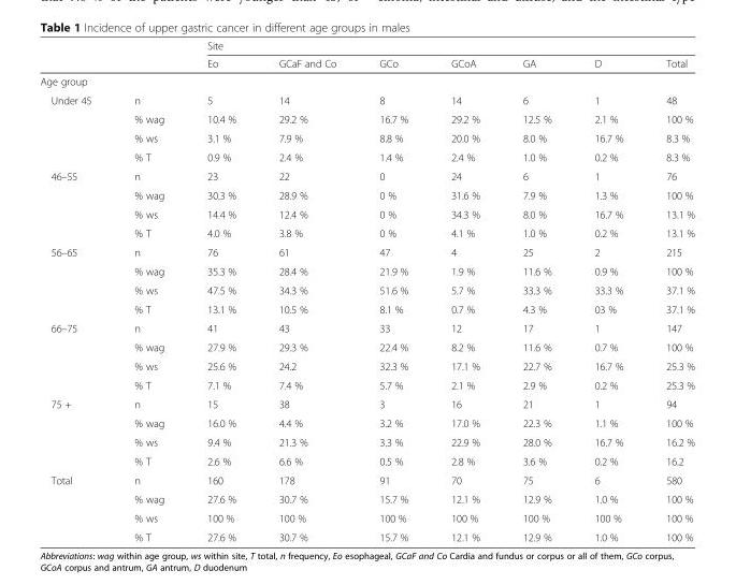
<table><thead><tr><td rowspan="2"></td><td rowspan="2"></td><td colspan="7">Site</td></tr><tr><td>Eo</td><td>GCaF and Co</td><td>GCo</td><td>GCoA</td><td>GA</td><td>D</td><td>Total</td></tr></thead><tbody><tr><td colspan="9">Age group</td></tr><tr><td rowspan="4">Under 45</td><td>n</td><td>5</td><td>14</td><td>8</td><td>14</td><td>6</td><td>1</td><td>48</td></tr><tr><td>% wag</td><td>10.4 %</td><td>29.2 %</td><td>16.7 %</td><td>29.2 %</td><td>12.5 %</td><td>2.1 %</td><td>100 %</td></tr><tr><td>% ws</td><td>3.1 %</td><td>7.9 %</td><td>8.8 %</td><td>20.0 %</td><td>8.0 %</td><td>16.7 %</td><td>8.3 %</td></tr><tr><td>% T</td><td>0.9 %</td><td>2.4 %</td><td>1.4 %</td><td>2.4 %</td><td>1.0 %</td><td>0.2 %</td><td>8.3 %</td></tr><tr><td rowspan="4">46–55</td><td>n</td><td>23</td><td>22</td><td>0</td><td>24</td><td>6</td><td>1</td><td>76</td></tr><tr><td>% wag</td><td>30.3 %</td><td>28.9 %</td><td>0 %</td><td>31.6 %</td><td>7.9 %</td><td>1.3 %</td><td>100 %</td></tr><tr><td>% ws</td><td>14.4 %</td><td>12.4 %</td><td>0 %</td><td>34.3 %</td><td>8.0 %</td><td>16.7 %</td><td>13.1 %</td></tr><tr><td>% T</td><td>4.0 %</td><td>3.8 %</td><td>0 %</td><td>4.1 %</td><td>1.0 %</td><td>0.2 %</td><td>13.1 %</td></tr><tr><td rowspan="4">56–65</td><td>n</td><td>76</td><td>61</td><td>47</td><td>4</td><td>25</td><td>2</td><td>215</td></tr><tr><td>% wag</td><td>35.3 %</td><td>28.4 %</td><td>21.9 %</td><td>1.9 %</td><td>11.6 %</td><td>0.9 %</td><td>100 %</td></tr><tr><td>% ws</td><td>47.5 %</td><td>34.3 %</td><td>51.6 %</td><td>5.7 %</td><td>33.3 %</td><td>33.3 %</td><td>37.1 %</td></tr><tr><td>% T</td><td>13.1 %</td><td>10.5 %</td><td>8.1 %</td><td>0.7 %</td><td>4.3 %</td><td>03 %</td><td>37.1 %</td></tr><tr><td rowspan="4">66–75</td><td>n</td><td>41</td><td>43</td><td>33</td><td>12</td><td>17</td><td>1</td><td>147</td></tr><tr><td>% wag</td><td>27.9 %</td><td>29.3 %</td><td>22.4 %</td><td>8.2 %</td><td>11.6 %</td><td>0.7 %</td><td>100 %</td></tr><tr><td>% ws</td><td>25.6 %</td><td>24.2</td><td>32.3 %</td><td>17.1 %</td><td>22.7 %</td><td>16.7 %</td><td>25.3 %</td></tr><tr><td>% T</td><td>7.1 %</td><td>7.4 %</td><td>5.7 %</td><td>2.1 %</td><td>2.9 %</td><td>0.2 %</td><td>25.3 %</td></tr><tr><td rowspan="4">75 +</td><td>n</td><td>15</td><td>38</td><td>3</td><td>16</td><td>21</td><td>1</td><td>94</td></tr><tr><td>% wag</td><td>16.0 %</td><td>4.4 %</td><td>3.2 %</td><td>17.0 %</td><td>22.3 %</td><td>1.1 %</td><td>100 %</td></tr><tr><td>% ws</td><td>9.4 %</td><td>21.3 %</td><td>3.3 %</td><td>22.9 %</td><td>28.0 %</td><td>16.7 %</td><td>16.2 %</td></tr><tr><td>% T</td><td>2.6 %</td><td>6.6 %</td><td>0.5 %</td><td>2.8 %</td><td>3.6 %</td><td>0.2 %</td><td>16.2</td></tr><tr><td rowspan="4">Total</td><td>n</td><td>160</td><td>178</td><td>91</td><td>70</td><td>75</td><td>6</td><td>580</td></tr><tr><td>% wag</td><td>27.6 %</td><td>30.7 %</td><td>15.7 %</td><td>12.1 %</td><td>12.9 %</td><td>1.0 %</td><td>100 %</td></tr><tr><td>% ws</td><td>100 %</td><td>100 %</td><td>100 %</td><td>100 %</td><td>100 %</td><td>100 %</td><td>100 %</td></tr><tr><td>% T</td><td>27.6 %</td><td>30.7 %</td><td>15.7 %</td><td>12.1 %</td><td>12.9 %</td><td>1.0 %</td><td>100 %</td></tr></tbody></table>